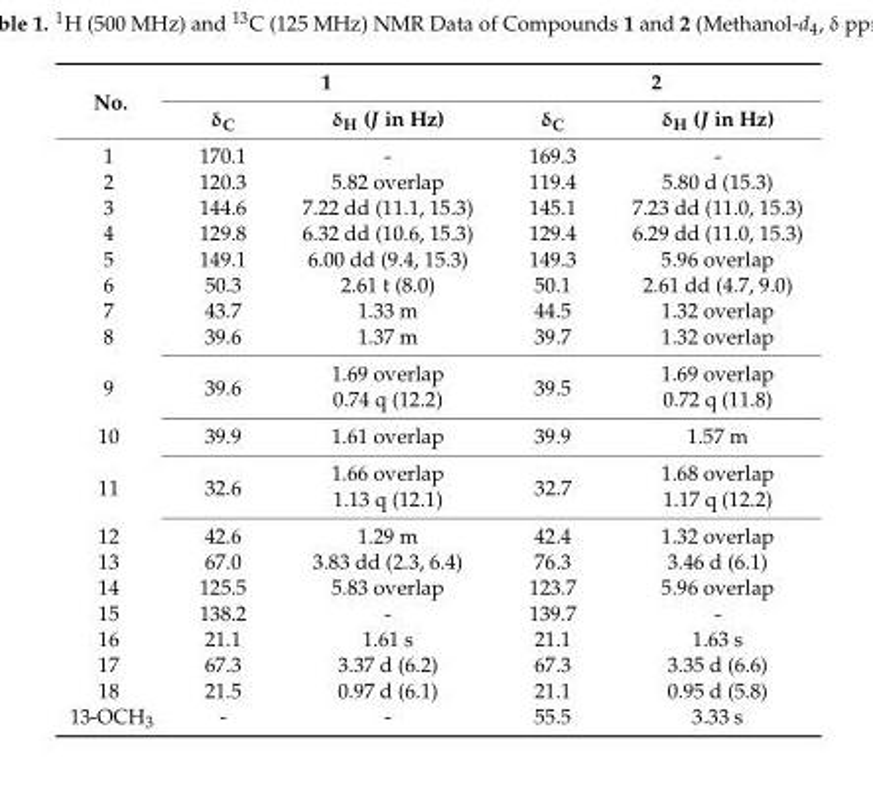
<table><thead><tr><td rowspan="2">No.</td><td colspan="2">1</td><td colspan="2">2</td></tr><tr><td>δ<sub>C</sub></td><td>δ<sub>H</sub> (J in Hz)</td><td>δ<sub>C</sub></td><td>δ<sub>H</sub> (J in Hz)</td></tr></thead><tbody><tr><td>1</td><td>170.1</td><td>-</td><td>169.3</td><td>-</td></tr><tr><td>2</td><td>120.3</td><td>5.82 overlap</td><td>119.4</td><td>5.80 d (15.3)</td></tr><tr><td>3</td><td>144.6</td><td>7.22 dd (11.1, 15.3)</td><td>145.1</td><td>7.23 dd (11.0, 15.3)</td></tr><tr><td>4</td><td>129.8</td><td>6.32 dd (10.6, 15.3)</td><td>129.4</td><td>6.29 dd (11.0, 15.3)</td></tr><tr><td>5</td><td>149.1</td><td>6.00 dd (9.4, 15.3)</td><td>149.3</td><td>5.96 overlap</td></tr><tr><td>6</td><td>50.3</td><td>2.61 t (8.0)</td><td>50.1</td><td>2.61 dd (4.7, 9.0)</td></tr><tr><td>7</td><td>43.7</td><td>1.33 m</td><td>44.5</td><td>1.32 overlap</td></tr><tr><td>8</td><td>39.6</td><td>1.37 m</td><td>39.7</td><td>1.32 overlap</td></tr><tr><td rowspan="2">9</td><td rowspan="2">39.6</td><td>1.69 overlap</td><td rowspan="2">39.5</td><td>1.69 overlap</td></tr><tr><td>0.74 q (12.2)</td><td>0.72 q (11.8)</td></tr><tr><td>10</td><td>39.9</td><td>1.61 overlap</td><td>39.9</td><td>1.57 m</td></tr><tr><td rowspan="2">11</td><td rowspan="2">32.6</td><td>1.66 overlap</td><td rowspan="2">32.7</td><td>1.68 overlap</td></tr><tr><td>1.13 q (12.1)</td><td>1.17 q (12.2)</td></tr><tr><td>12</td><td>42.6</td><td>1.29 m</td><td>42.4</td><td>1.32 overlap</td></tr><tr><td>13</td><td>67.0</td><td>3.83 dd (2.3, 6.4)</td><td>76.3</td><td>3.46 d (6.1)</td></tr><tr><td>14</td><td>125.5</td><td>5.83 overlap</td><td>123.7</td><td>5.96 overlap</td></tr><tr><td>15</td><td>138.2</td><td>-</td><td>139.7</td><td>-</td></tr><tr><td>16</td><td>21.1</td><td>1.61 s</td><td>21.1</td><td>1.63 s</td></tr><tr><td>17</td><td>67.3</td><td>3.37 d (6.2)</td><td>67.3</td><td>3.35 d (6.6)</td></tr><tr><td>18</td><td>21.5</td><td>0.97 d (6.1)</td><td>21.1</td><td>0.95 d (5.8)</td></tr><tr><td>13-OCH<sub>3</sub></td><td>-</td><td>-</td><td>55.5</td><td>3.33 s</td></tr></tbody></table>